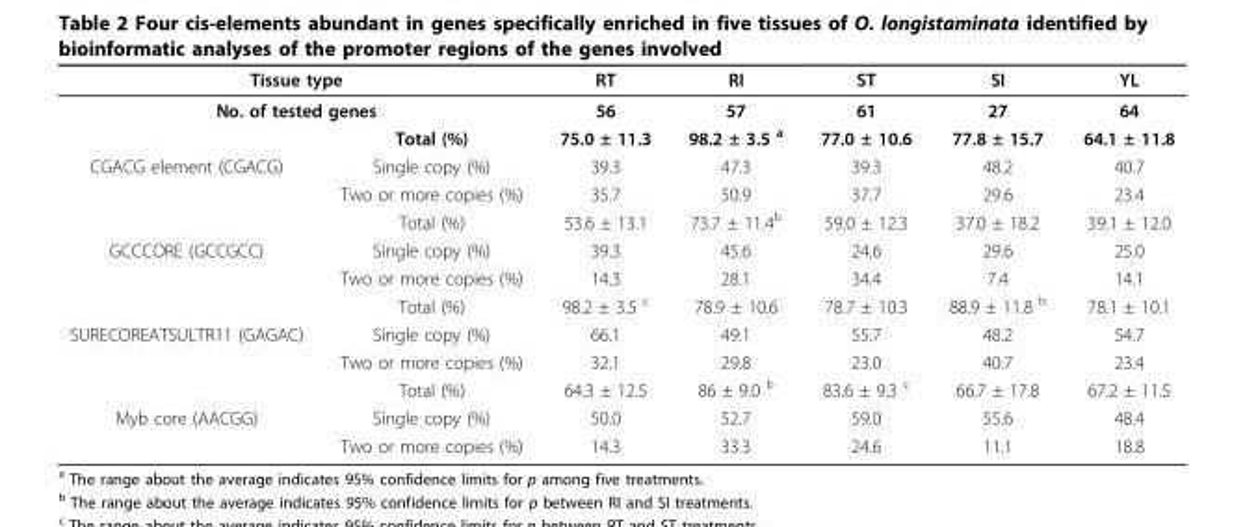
<table><thead><tr><td rowspan="2" colspan="2">Tissue type No. of tested genes</td><td rowspan="3">RT 56 75.0 ± 11.3</td><td rowspan="3">RI 57 98.2 ± 3.5 <sup>a</sup></td><td rowspan="3">ST 61 77.0 ± 10.6</td><td rowspan="3">SI 27 77.8 ± 15.7</td><td rowspan="3">YL 64 64.1 ± 11.8</td></tr><tr></tr><tr><td></td><td>Total (%)</td></tr></thead><tbody><tr><td rowspan="3">CGACG element (CGACG)</td><td>Single copy (%)</td><td>39.3</td><td>47.3</td><td>39.3</td><td>48.2</td><td>40.7</td></tr><tr><td>Two or more copies (%)</td><td>35.7</td><td>50.9</td><td>37.7</td><td>29.6</td><td>23.4</td></tr><tr><td>Total (%)</td><td>53.6 ± 13.1</td><td>73.7 ± 11.4<sup>b</sup></td><td>59.0 ± 12.3</td><td>37.0 ± 18.2</td><td>39.1 ± 12.0</td></tr><tr><td rowspan="3">GCCCORE (GCCGCC)</td><td>Single copy (%)</td><td>39.3</td><td>45.6</td><td>24.6</td><td>29.6</td><td>25.0</td></tr><tr><td>Two or more copies (%)</td><td>14.3</td><td>28.1</td><td>34.4</td><td>7.4</td><td>14.1</td></tr><tr><td>Total (%)</td><td>98.2 ± 3.5 <sup>c</sup></td><td>78.9 ± 10.6</td><td>78.7 ± 10.3</td><td>88.9 ± 11.8 <sup>b</sup></td><td>78.1 ± 10.1</td></tr><tr><td rowspan="3">SURECOREATSULTR11 (GAGAC)</td><td>Single copy (%)</td><td>66.1</td><td>49.1</td><td>55.7</td><td>48.2</td><td>54.7</td></tr><tr><td>Two or more copies (%)</td><td>32.1</td><td>29.8</td><td>23.0</td><td>40.7</td><td>23.4</td></tr><tr><td>Total (%)</td><td>64.3 ± 12.5</td><td>86 ± 9.0 <sup>b</sup></td><td>83.6 ± 9.3 <sup>c</sup></td><td>66.7 ± 17.8</td><td>67.2 ± 11.5</td></tr><tr><td rowspan="2">Myb core (AACGG)</td><td>Single copy (%)</td><td>50.0</td><td>52.7</td><td>59.0</td><td>55.6</td><td>48.4</td></tr><tr><td>Two or more copies (%)</td><td>14.3</td><td>33.3</td><td>24.6</td><td>11.1</td><td>18.8</td></tr></tbody></table>